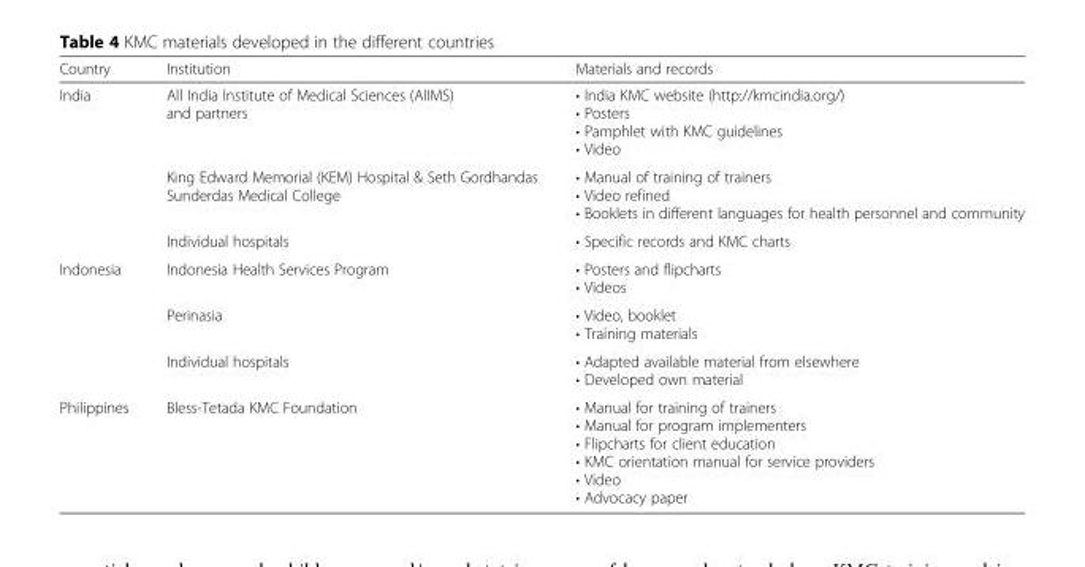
<table><thead><tr><td>Country</td><td>Institution</td><td>Materials and records</td></tr></thead><tbody><tr><td rowspan="3">India</td><td>All India Institute of Medical Sciences (AIIMS) and partners</td><td>• India KMC website (http://kmcindia.org/) • Posters • Pamphlet with KMC guidelines • Video</td></tr><tr><td>King Edward Memorial (KEM) Hospital &amp; Seth Gordhandas Sunderdas Medical College</td><td>• Manual of training of trainers • Video refined • Booklets in different languages for health personnel and community</td></tr><tr><td>Individual hospitals</td><td>• Specific records and KMC charts</td></tr><tr><td rowspan="3">Indonesia</td><td>Indonesia Health Services Program</td><td>• Posters and flipcharts • Videos</td></tr><tr><td>Perinasia</td><td>• Video, booklet • Training materials</td></tr><tr><td>Individual hospitals</td><td>• Adapted available material from elsewhere • Developed own material</td></tr><tr><td>Philippines</td><td>Bless-Tetada KMC Foundation</td><td>• Manual for training of trainers • Manual for program implementers • Flipcharts for client education • KMC orientation manual for service providers • Video • Advocacy paper</td></tr></tbody></table>